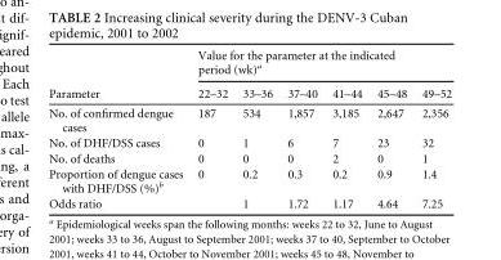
<table><thead><tr><td rowspan="2">Parameter</td><td colspan="6">Value for the parameter at the indicated period (wk)<sup>a</sup></td></tr><tr><td>22–32</td><td>33–36</td><td>37–40</td><td>41–44</td><td>45–48</td><td>49–52</td></tr></thead><tbody><tr><td>No. of confirmed dengue cases</td><td>187</td><td>534</td><td>1,857</td><td>3,185</td><td>2,647</td><td>2,356</td></tr><tr><td>No. of DHF/DSS cases</td><td>0</td><td>1</td><td>6</td><td>7</td><td>23</td><td>32</td></tr><tr><td>No. of deaths</td><td>0</td><td>0</td><td>0</td><td>2</td><td>0</td><td>1</td></tr><tr><td>Proportion of dengue cases with DHF/DSS (%)<sup>b</sup></td><td>0</td><td>0.2</td><td>0.3</td><td>0.2</td><td>0.9</td><td>1.4</td></tr><tr><td>Odds ratio</td><td></td><td>1</td><td>1.72</td><td>1.17</td><td>4.64</td><td>7.25</td></tr></tbody></table>